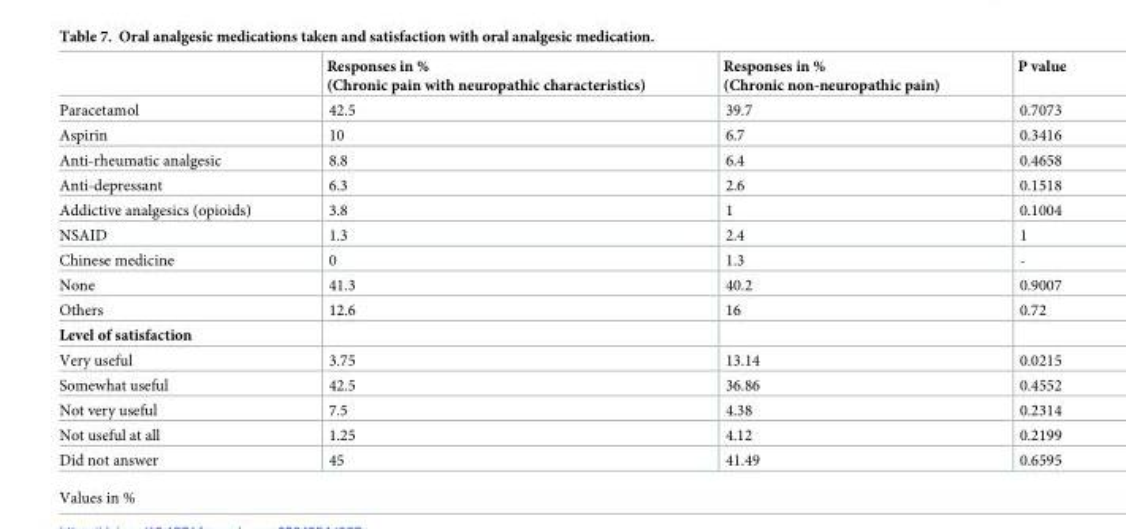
<table><thead><tr><td></td><td>Responses in % (Chronic pain with neuropathic characteristics)</td><td>Responses in % (Chronic non-neuropathic pain)</td><td>P value</td></tr></thead><tbody><tr><td>Paracetamol</td><td>42.5</td><td>39.7</td><td>0.7073</td></tr><tr><td>Aspirin</td><td>10</td><td>6.7</td><td>0.3416</td></tr><tr><td>Anti-rheumatic analgesic</td><td>8.8</td><td>6.4</td><td>0.4658</td></tr><tr><td>Anti-depressant</td><td>6.3</td><td>2.6</td><td>0.1518</td></tr><tr><td>Addictive analgesics (opioids)</td><td>3.8</td><td>1</td><td>0.1004</td></tr><tr><td>NSAID</td><td>1.3</td><td>2.4</td><td>1</td></tr><tr><td>Chinese medicine</td><td>0</td><td>1.3</td><td>-</td></tr><tr><td>None</td><td>41.3</td><td>40.2</td><td>0.9007</td></tr><tr><td>Others</td><td>12.6</td><td>16</td><td>0.72</td></tr><tr><td colspan="4">Level of satisfaction</td></tr><tr><td>Very useful</td><td>3.75</td><td>13.14</td><td>0.0215</td></tr><tr><td>Somewhat useful</td><td>42.5</td><td>36.86</td><td>0.4552</td></tr><tr><td>Not very useful</td><td>7.5</td><td>4.38</td><td>0.2314</td></tr><tr><td>Not useful at all</td><td>1.25</td><td>4.12</td><td>0.2199</td></tr><tr><td>Did not answer</td><td>45</td><td>41.49</td><td>0.6595</td></tr></tbody></table>